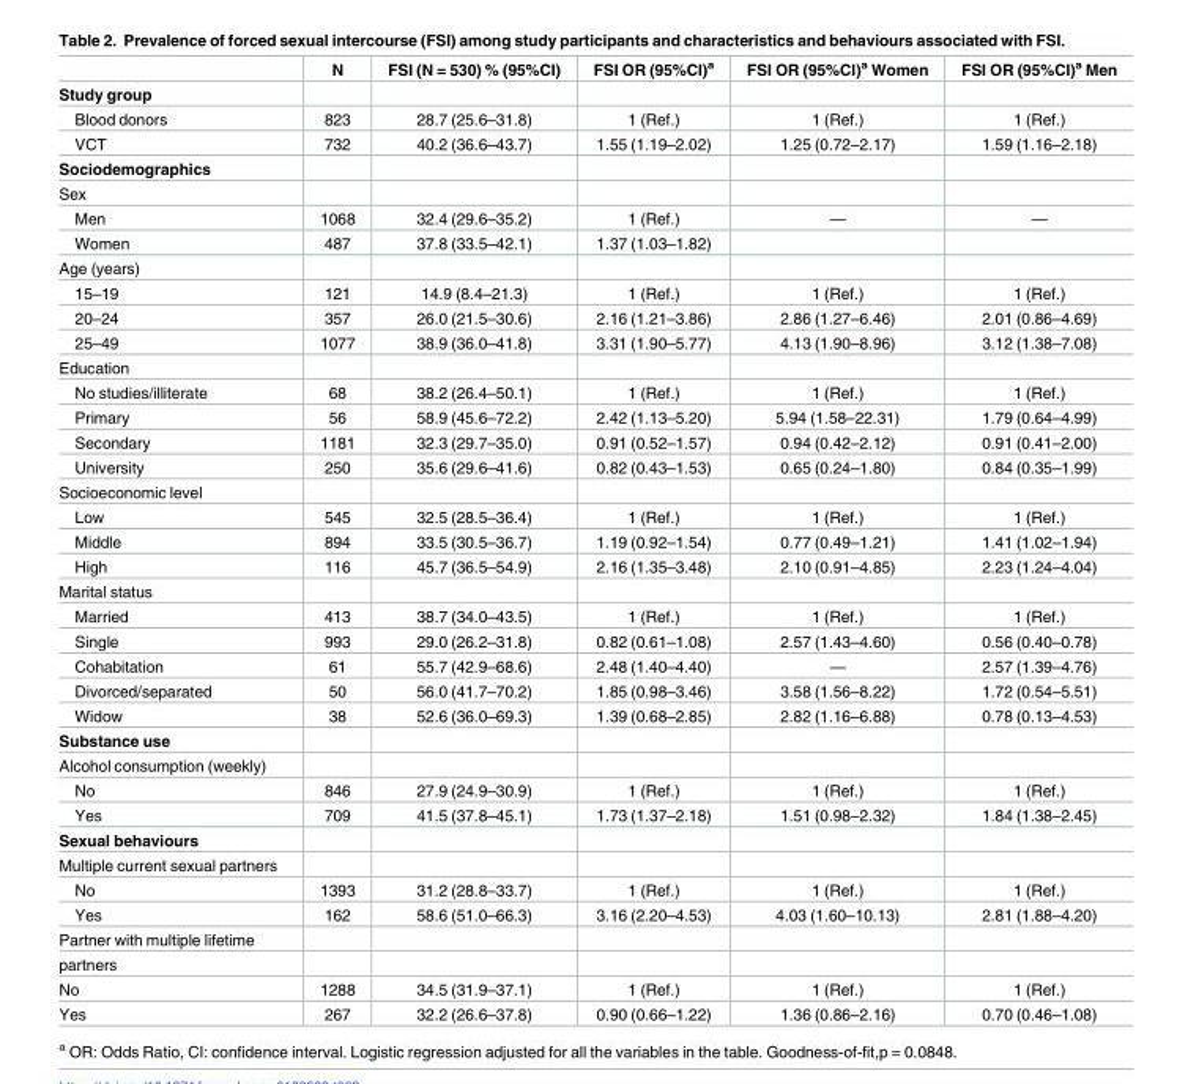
<table><thead><tr><td></td><td>N</td><td>FSI (N = 530) % (95%CI)</td><td>FSI OR (95%CI)<sup>a</sup></td><td>FSI OR (95%CI)<sup>a</sup> Women</td><td>FSI OR (95%CI)<sup>a</sup> Men</td></tr></thead><tbody><tr><td colspan="6">Study group</td></tr><tr><td>Blood donors</td><td>823</td><td>28.7 (25.6–31.8)</td><td>1 (Ref.)</td><td>1 (Ref.)</td><td>1 (Ref.)</td></tr><tr><td>VCT</td><td>732</td><td>40.2 (36.6–43.7)</td><td>1.55 (1.19–2.02)</td><td>1.25 (0.72–2.17)</td><td>1.59 (1.16–2.18)</td></tr><tr><td colspan="6">Sociodemographics</td></tr><tr><td colspan="6">Sex</td></tr><tr><td>Men</td><td>1068</td><td>32.4 (29.6–35.2)</td><td>1 (Ref.)</td><td>—</td><td>—</td></tr><tr><td>Women</td><td>487</td><td>37.8 (33.5–42.1)</td><td>1.37 (1.03–1.82)</td><td></td><td></td></tr><tr><td colspan="6">Age (years)</td></tr><tr><td>15–19</td><td>121</td><td>14.9 (8.4–21.3)</td><td>1 (Ref.)</td><td>1 (Ref.)</td><td>1 (Ref.)</td></tr><tr><td>20–24</td><td>357</td><td>26.0 (21.5–30.6)</td><td>2.16 (1.21–3.86)</td><td>2.86 (1.27–6.46)</td><td>2.01 (0.86–4.69)</td></tr><tr><td>25–49</td><td>1077</td><td>38.9 (36.0–41.8)</td><td>3.31 (1.90–5.77)</td><td>4.13 (1.90–8.96)</td><td>3.12 (1.38–7.08)</td></tr><tr><td colspan="6">Education</td></tr><tr><td>No studies/illiterate</td><td>68</td><td>38.2 (26.4–50.1)</td><td>1 (Ref.)</td><td>1 (Ref.)</td><td>1 (Ref.)</td></tr><tr><td>Primary</td><td>56</td><td>58.9 (45.6–72.2)</td><td>2.42 (1.13–5.20)</td><td>5.94 (1.58–22.31)</td><td>1.79 (0.64–4.99)</td></tr><tr><td>Secondary</td><td>1181</td><td>32.3 (29.7–35.0)</td><td>0.91 (0.52–1.57)</td><td>0.94 (0.42–2.12)</td><td>0.91 (0.41–2.00)</td></tr><tr><td>University</td><td>250</td><td>35.6 (29.6–41.6)</td><td>0.82 (0.43–1.53)</td><td>0.65 (0.24–1.80)</td><td>0.84 (0.35–1.99)</td></tr><tr><td colspan="6">Socioeconomic level</td></tr><tr><td>Low</td><td>545</td><td>32.5 (28.5–36.4)</td><td>1 (Ref.)</td><td>1 (Ref.)</td><td>1 (Ref.)</td></tr><tr><td>Middle</td><td>894</td><td>33.5 (30.5–36.7)</td><td>1.19 (0.92–1.54)</td><td>0.77 (0.49–1.21)</td><td>1.41 (1.02–1.94)</td></tr><tr><td>High</td><td>116</td><td>45.7 (36.5–54.9)</td><td>2.16 (1.35–3.48)</td><td>2.10 (0.91–4.85)</td><td>2.23 (1.24–4.04)</td></tr><tr><td colspan="6">Marital status</td></tr><tr><td>Married</td><td>413</td><td>38.7 (34.0–43.5)</td><td>1 (Ref.)</td><td>1 (Ref.)</td><td>1 (Ref.)</td></tr><tr><td>Single</td><td>993</td><td>29.0 (26.2–31.8)</td><td>0.82 (0.61–1.08)</td><td>2.57 (1.43–4.60)</td><td>0.56 (0.40–0.78)</td></tr><tr><td>Cohabitation</td><td>61</td><td>55.7 (42.9–68.6)</td><td>2.48 (1.40–4.40)</td><td>—</td><td>2.57 (1.39–4.76)</td></tr><tr><td>Divorced/separated</td><td>50</td><td>56.0 (41.7–70.2)</td><td>1.85 (0.98–3.46)</td><td>3.58 (1.56–8.22)</td><td>1.72 (0.54–5.51)</td></tr><tr><td>Widow</td><td>38</td><td>52.6 (36.0–69.3)</td><td>1.39 (0.68–2.85)</td><td>2.82 (1.16–6.88)</td><td>0.78 (0.13–4.53)</td></tr><tr><td colspan="6">Substance use</td></tr><tr><td colspan="6">Alcohol consumption (weekly)</td></tr><tr><td>No</td><td>846</td><td>27.9 (24.9–30.9)</td><td>1 (Ref.)</td><td>1 (Ref.)</td><td>1 (Ref.)</td></tr><tr><td>Yes</td><td>709</td><td>41.5 (37.8–45.1)</td><td>1.73 (1.37–2.18)</td><td>1.51 (0.98–2.32)</td><td>1.84 (1.38–2.45)</td></tr><tr><td colspan="6">Sexual behaviours</td></tr><tr><td colspan="6">Multiple current sexual partners</td></tr><tr><td>No</td><td>1393</td><td>31.2 (28.8–33.7)</td><td>1 (Ref.)</td><td>1 (Ref.)</td><td>1 (Ref.)</td></tr><tr><td>Yes</td><td>162</td><td>58.6 (51.0–66.3)</td><td>3.16 (2.20–4.53)</td><td>4.03 (1.60–10.13)</td><td>2.81 (1.88–4.20)</td></tr><tr><td colspan="6">Partner with multiple lifetime</td></tr><tr><td colspan="6">partners</td></tr><tr><td>No</td><td>1288</td><td>34.5 (31.9–37.1)</td><td>1 (Ref.)</td><td>1 (Ref.)</td><td>1 (Ref.)</td></tr><tr><td>Yes</td><td>267</td><td>32.2 (26.6–37.8)</td><td>0.90 (0.66–1.22)</td><td>1.36 (0.86–2.16)</td><td>0.70 (0.46–1.08)</td></tr></tbody></table>